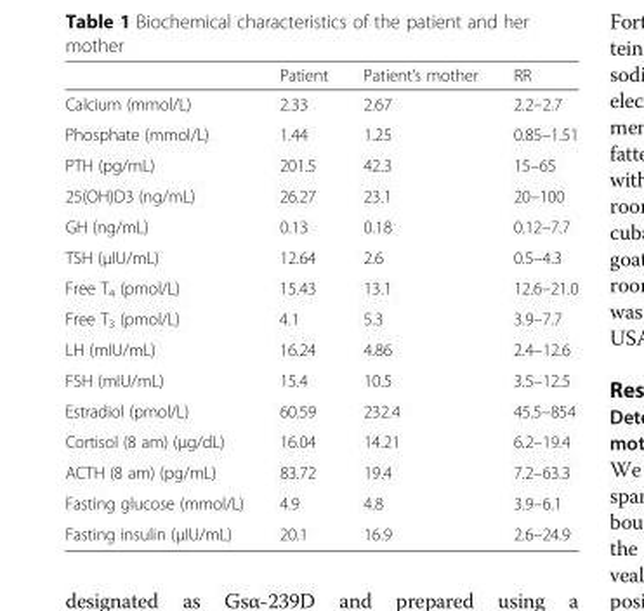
<table><thead><tr><td></td><td>Patient</td><td>Patient’s mother</td><td>RR</td></tr></thead><tbody><tr><td>Calcium (mmol/L)</td><td>2.33</td><td>2.67</td><td>2.2–2.7</td></tr><tr><td>Phosphate (mmol/L)</td><td>1.44</td><td>1.25</td><td>0.85–1.51</td></tr><tr><td>PTH (pg/mL)</td><td>201.5</td><td>42.3</td><td>15–65</td></tr><tr><td>25(OH)D3 (ng/mL)</td><td>26.27</td><td>23.1</td><td>20–100</td></tr><tr><td>GH (ng/mL)</td><td>0.13</td><td>0.18</td><td>0.12–7.7</td></tr><tr><td>TSH (μIU/mL)</td><td>12.64</td><td>2.6</td><td>0.5–4.3</td></tr><tr><td>Free T<sub>4</sub> (pmol/L)</td><td>15.43</td><td>13.1</td><td>12.6–21.0</td></tr><tr><td>Free T<sub>3</sub> (pmol/L)</td><td>4.1</td><td>5.3</td><td>3.9–7.7</td></tr><tr><td>LH (mIU/mL)</td><td>16.24</td><td>4.86</td><td>2.4–12.6</td></tr><tr><td>FSH (mIU/mL)</td><td>15.4</td><td>10.5</td><td>3.5–12.5</td></tr><tr><td>Estradiol (pmol/L)</td><td>60.59</td><td>232.4</td><td>45.5–854</td></tr><tr><td>Cortisol (8 am) (μg/dL)</td><td>16.04</td><td>14.21</td><td>6.2–19.4</td></tr><tr><td>ACTH (8 am) (pg/mL)</td><td>83.72</td><td>19.4</td><td>7.2–63.3</td></tr><tr><td>Fasting glucose (mmol/L)</td><td>4.9</td><td>4.8</td><td>3.9–6.1</td></tr><tr><td>Fasting insulin (μIU/mL)</td><td>20.1</td><td>16.9</td><td>2.6–24.9</td></tr></tbody></table>